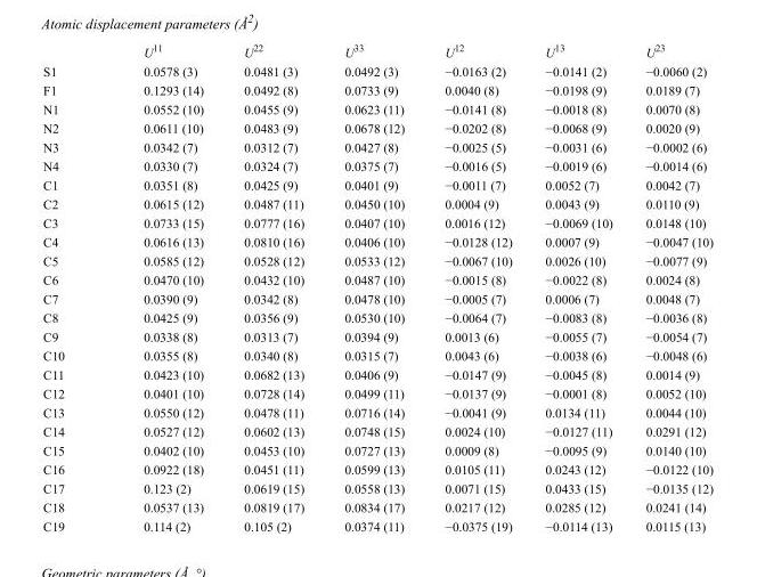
<table><thead><tr><td></td><td>U<sup>11</sup></td><td>U<sup>22</sup></td><td>U<sup>33</sup></td><td>U<sup>12</sup></td><td>U<sup>13</sup></td><td>U<sup>23</sup></td></tr></thead><tbody><tr><td>S1</td><td>0.0578 (3)</td><td>0.0481 (3)</td><td>0.0492 (3)</td><td>−0.0163 (2)</td><td>−0.0141 (2)</td><td>−0.0060 (2)</td></tr><tr><td>F1</td><td>0.1293 (14)</td><td>0.0492 (8)</td><td>0.0733 (9)</td><td>0.0040 (8)</td><td>−0.0198 (9)</td><td>0.0189 (7)</td></tr><tr><td>N1</td><td>0.0552 (10)</td><td>0.0455 (9)</td><td>0.0623 (11)</td><td>−0.0141 (8)</td><td>−0.0018 (8)</td><td>0.0070 (8)</td></tr><tr><td>N2</td><td>0.0611 (10)</td><td>0.0483 (9)</td><td>0.0678 (12)</td><td>−0.0202 (8)</td><td>−0.0068 (9)</td><td>0.0020 (9)</td></tr><tr><td>N3</td><td>0.0342 (7)</td><td>0.0312 (7)</td><td>0.0427 (8)</td><td>−0.0025 (5)</td><td>−0.0031 (6)</td><td>−0.0002 (6)</td></tr><tr><td>N4</td><td>0.0330 (7)</td><td>0.0324 (7)</td><td>0.0375 (7)</td><td>−0.0016 (5)</td><td>−0.0019 (6)</td><td>−0.0014 (6)</td></tr><tr><td>C1</td><td>0.0351 (8)</td><td>0.0425 (9)</td><td>0.0401 (9)</td><td>−0.0011 (7)</td><td>0.0052 (7)</td><td>0.0042 (7)</td></tr><tr><td>C2</td><td>0.0615 (12)</td><td>0.0487 (11)</td><td>0.0450 (10)</td><td>0.0004 (9)</td><td>0.0043 (9)</td><td>0.0110 (9)</td></tr><tr><td>C3</td><td>0.0733 (15)</td><td>0.0777 (16)</td><td>0.0407 (10)</td><td>0.0016 (12)</td><td>−0.0069 (10)</td><td>0.0148 (10)</td></tr><tr><td>C4</td><td>0.0616 (13)</td><td>0.0810 (16)</td><td>0.0406 (10)</td><td>−0.0128 (12)</td><td>0.0007 (9)</td><td>−0.0047 (10)</td></tr><tr><td>C5</td><td>0.0585 (12)</td><td>0.0528 (12)</td><td>0.0533 (12)</td><td>−0.0067 (10)</td><td>0.0026 (10)</td><td>−0.0077 (9)</td></tr><tr><td>C6</td><td>0.0470 (10)</td><td>0.0432 (10)</td><td>0.0487 (10)</td><td>−0.0015 (8)</td><td>−0.0022 (8)</td><td>0.0024 (8)</td></tr><tr><td>C7</td><td>0.0390 (9)</td><td>0.0342 (8)</td><td>0.0478 (10)</td><td>−0.0005 (7)</td><td>0.0006 (7)</td><td>0.0048 (7)</td></tr><tr><td>C8</td><td>0.0425 (9)</td><td>0.0356 (9)</td><td>0.0530 (10)</td><td>−0.0064 (7)</td><td>−0.0083 (8)</td><td>−0.0036 (8)</td></tr><tr><td>C9</td><td>0.0338 (8)</td><td>0.0313 (7)</td><td>0.0394 (9)</td><td>0.0013 (6)</td><td>−0.0055 (7)</td><td>−0.0054 (7)</td></tr><tr><td>C10</td><td>0.0355 (8)</td><td>0.0340 (8)</td><td>0.0315 (7)</td><td>0.0043 (6)</td><td>−0.0038 (6)</td><td>−0.0048 (6)</td></tr><tr><td>C11</td><td>0.0423 (10)</td><td>0.0682 (13)</td><td>0.0406 (9)</td><td>−0.0147 (9)</td><td>−0.0045 (8)</td><td>0.0014 (9)</td></tr><tr><td>C12</td><td>0.0401 (10)</td><td>0.0728 (14)</td><td>0.0499 (11)</td><td>−0.0137 (9)</td><td>−0.0001 (8)</td><td>0.0052 (10)</td></tr><tr><td>C13</td><td>0.0550 (12)</td><td>0.0478 (11)</td><td>0.0716 (14)</td><td>−0.0041 (9)</td><td>0.0134 (11)</td><td>0.0044 (10)</td></tr><tr><td>C14</td><td>0.0527 (12)</td><td>0.0602 (13)</td><td>0.0748 (15)</td><td>0.0024 (10)</td><td>−0.0127 (11)</td><td>0.0291 (12)</td></tr><tr><td>C15</td><td>0.0402 (10)</td><td>0.0453 (10)</td><td>0.0727 (13)</td><td>0.0009 (8)</td><td>−0.0095 (9)</td><td>0.0140 (10)</td></tr><tr><td>C16</td><td>0.0922 (18)</td><td>0.0451 (11)</td><td>0.0599 (13)</td><td>0.0105 (11)</td><td>0.0243 (12)</td><td>−0.0122 (10)</td></tr><tr><td>C17</td><td>0.123 (2)</td><td>0.0619 (15)</td><td>0.0558 (13)</td><td>0.0071 (15)</td><td>0.0433 (15)</td><td>−0.0135 (12)</td></tr><tr><td>C18</td><td>0.0537 (13)</td><td>0.0819 (17)</td><td>0.0834 (17)</td><td>0.0217 (12)</td><td>0.0285 (12)</td><td>0.0241 (14)</td></tr><tr><td>C19</td><td>0.114 (2)</td><td>0.105 (2)</td><td>0.0374 (11)</td><td>−0.0375 (19)</td><td>−0.0114 (13)</td><td>0.0115 (13)</td></tr></tbody></table>